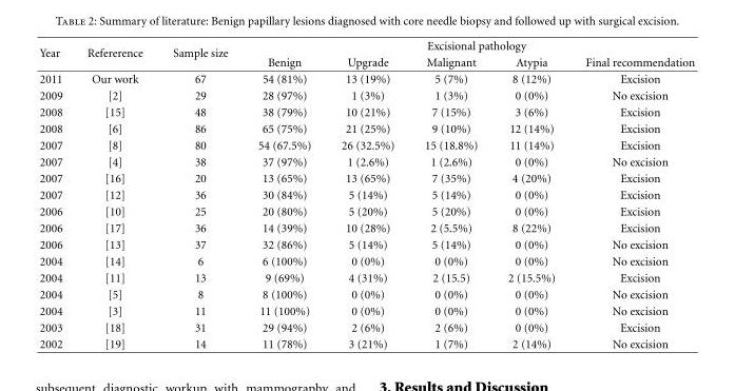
<table><thead><tr><td rowspan="2">Year</td><td rowspan="2">Refererence</td><td rowspan="2">Sample size</td><td colspan="5">Excisional pathology</td></tr><tr><td>Benign</td><td>Upgrade</td><td>Malignant</td><td>Atypia</td><td>Final recommendation</td></tr></thead><tbody><tr><td>2011</td><td>Our work</td><td>67</td><td>54 (81%)</td><td>13 (19%)</td><td>5 (7%)</td><td>8 (12%)</td><td>Excision</td></tr><tr><td>2009</td><td>[2]</td><td>29</td><td>28 (97%)</td><td>1 (3%)</td><td>1 (3%)</td><td>0 (0%)</td><td>No excision</td></tr><tr><td>2008</td><td>[15]</td><td>48</td><td>38 (79%)</td><td>10 (21%)</td><td>7 (15%)</td><td>3 (6%)</td><td>Excision</td></tr><tr><td>2008</td><td>[6]</td><td>86</td><td>65 (75%)</td><td>21 (25%)</td><td>9 (10%)</td><td>12 (14%)</td><td>Excision</td></tr><tr><td>2007</td><td>[8]</td><td>80</td><td>54 (67.5%)</td><td>26 (32.5%)</td><td>15 (18.8%)</td><td>11 (14%)</td><td>Excision</td></tr><tr><td>2007</td><td>[4]</td><td>38</td><td>37 (97%)</td><td>1 (2.6%)</td><td>1 (2.6%)</td><td>0 (0%)</td><td>No excision</td></tr><tr><td>2007</td><td>[16]</td><td>20</td><td>13 (65%)</td><td>13 (65%)</td><td>7 (35%)</td><td>4 (20%)</td><td>Excision</td></tr><tr><td>2007</td><td>[12]</td><td>36</td><td>30 (84%)</td><td>5 (14%)</td><td>5 (14%)</td><td>0 (0%)</td><td>Excision</td></tr><tr><td>2006</td><td>[10]</td><td>25</td><td>20 (80%)</td><td>5 (20%)</td><td>5 (20%)</td><td>0 (0%)</td><td>Excision</td></tr><tr><td>2006</td><td>[17]</td><td>36</td><td>14 (39%)</td><td>10 (28%)</td><td>2 (5.5%)</td><td>8 (22%)</td><td>Excision</td></tr><tr><td>2006</td><td>[13]</td><td>37</td><td>32 (86%)</td><td>5 (14%)</td><td>5 (14%)</td><td>0 (0%)</td><td>No excision</td></tr><tr><td>2004</td><td>[14]</td><td>6</td><td>6 (100%)</td><td>0 (0%)</td><td>0 (0%)</td><td>0 (0%)</td><td>No excision</td></tr><tr><td>2004</td><td>[11]</td><td>13</td><td>9 (69%)</td><td>4 (31%)</td><td>2 (15.5)</td><td>2 (15.5%)</td><td>Excision</td></tr><tr><td>2004</td><td>[5]</td><td>8</td><td>8 (100%)</td><td>0 (0%)</td><td>0 (0%)</td><td>0 (0%)</td><td>No excision</td></tr><tr><td>2004</td><td>[3]</td><td>11</td><td>11 (100%)</td><td>0 (0%)</td><td>0 (0%)</td><td>0 (0%)</td><td>No excision</td></tr><tr><td>2003</td><td>[18]</td><td>31</td><td>29 (94%)</td><td>2 (6%)</td><td>2 (6%)</td><td>0 (0%)</td><td>Excision</td></tr><tr><td>2002</td><td>[19]</td><td>14</td><td>11 (78%)</td><td>3 (21%)</td><td>1 (7%)</td><td>2 (14%)</td><td>No excision</td></tr></tbody></table>